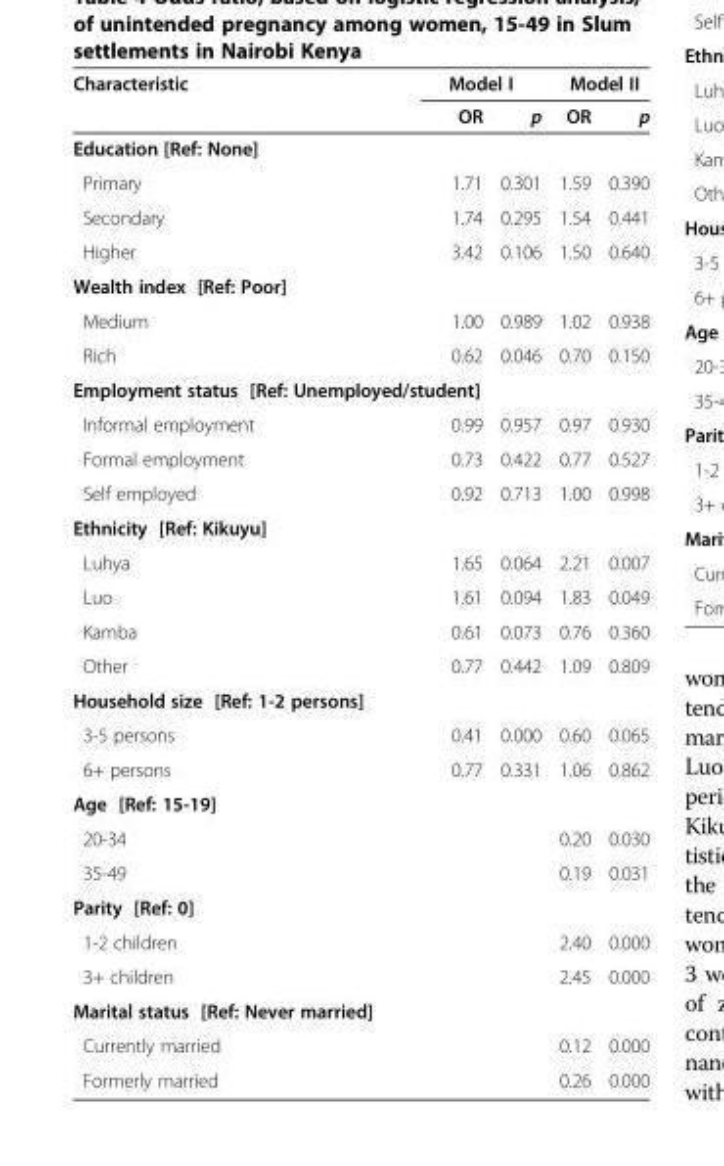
<table><thead><tr><td rowspan="2">Characteristic</td><td colspan="2">Model I</td><td colspan="2">Model II</td></tr><tr><td>OR</td><td>p</td><td>OR</td><td>p</td></tr></thead><tbody><tr><td colspan="5">Education [Ref: None]</td></tr><tr><td>Primary</td><td>1.71</td><td>0.301</td><td>1.59</td><td>0.390</td></tr><tr><td>Secondary</td><td>1.74</td><td>0.295</td><td>1.54</td><td>0.441</td></tr><tr><td>Higher</td><td>3.42</td><td>0.106</td><td>1.50</td><td>0.640</td></tr><tr><td colspan="5">Wealth index [Ref: Poor]</td></tr><tr><td>Medium</td><td>1.00</td><td>0.989</td><td>1.02</td><td>0.938</td></tr><tr><td>Rich</td><td>0.62</td><td>0.046</td><td>0.70</td><td>0.150</td></tr><tr><td colspan="5">Employment status [Ref: Unemployed/student]</td></tr><tr><td>Informal employment</td><td>0.99</td><td>0.957</td><td>0.97</td><td>0.930</td></tr><tr><td>Formal employment</td><td>0.73</td><td>0.422</td><td>0.77</td><td>0.527</td></tr><tr><td>Self employed</td><td>0.92</td><td>0.713</td><td>1.00</td><td>0.998</td></tr><tr><td colspan="5">Ethnicity [Ref: Kikuyu]</td></tr><tr><td>Luhya</td><td>1.65</td><td>0.064</td><td>2.21</td><td>0.007</td></tr><tr><td>Luo</td><td>1.61</td><td>0.094</td><td>1.83</td><td>0.049</td></tr><tr><td>Kamba</td><td>0.61</td><td>0.073</td><td>0.76</td><td>0.360</td></tr><tr><td>Other</td><td>0.77</td><td>0.442</td><td>1.09</td><td>0.809</td></tr><tr><td colspan="5">Household size [Ref: 1-2 persons]</td></tr><tr><td>3-5 persons</td><td>0.41</td><td>0.000</td><td>0.60</td><td>0.065</td></tr><tr><td>6+ persons</td><td>0.77</td><td>0.331</td><td>1.06</td><td>0.862</td></tr><tr><td colspan="5">Age [Ref: 15-19]</td></tr><tr><td>20-34</td><td></td><td></td><td>0.20</td><td>0.030</td></tr><tr><td>35-49</td><td></td><td></td><td>0.19</td><td>0.031</td></tr><tr><td colspan="5">Parity [Ref: 0]</td></tr><tr><td>1-2 children</td><td></td><td></td><td>2.40</td><td>0.000</td></tr><tr><td>3+ children</td><td></td><td></td><td>2.45</td><td>0.000</td></tr><tr><td colspan="5">Marital status [Ref: Never married]</td></tr><tr><td>Currently married</td><td></td><td></td><td>0.12</td><td>0.000</td></tr><tr><td>Formerly married</td><td></td><td></td><td>0.26</td><td>0.000</td></tr></tbody></table>